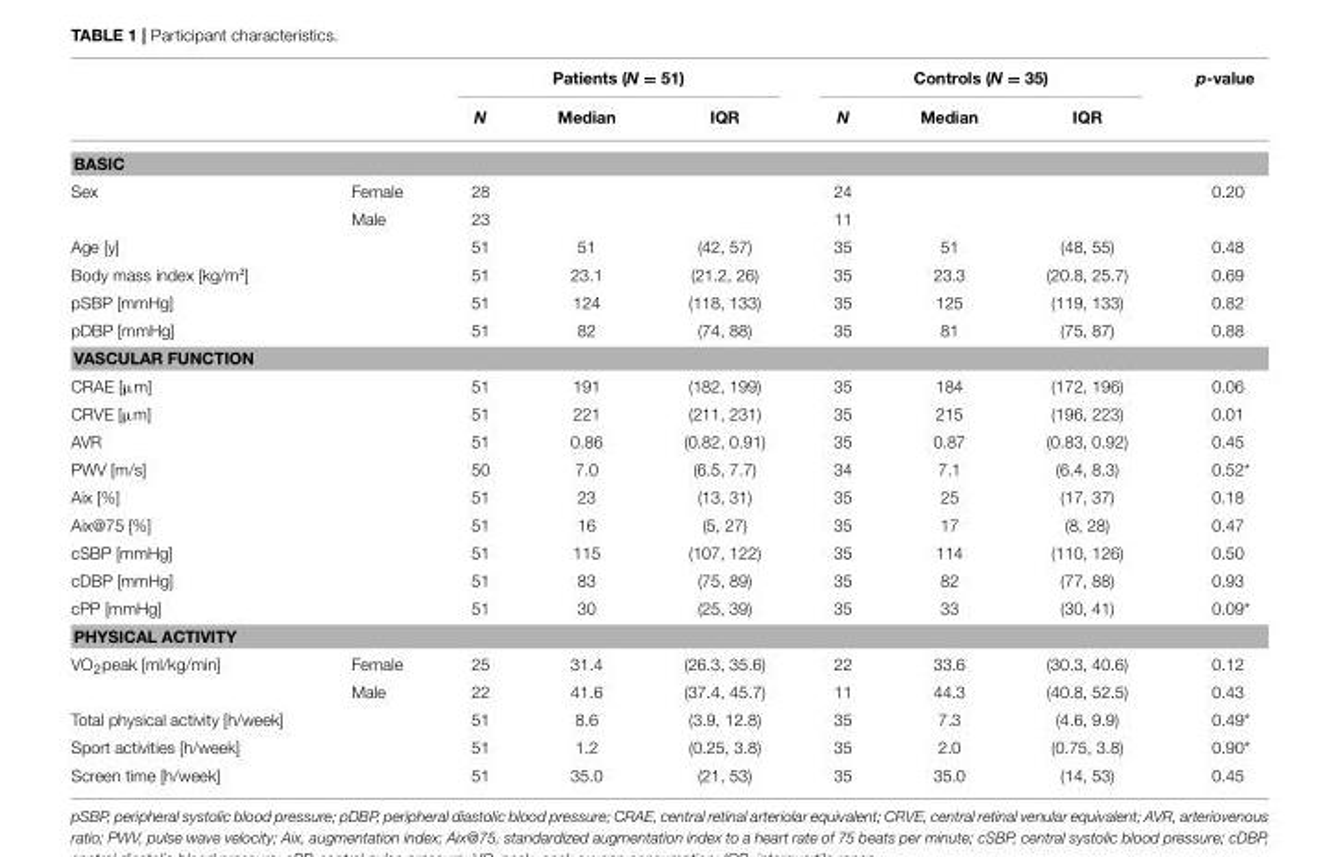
<table><thead><tr><td rowspan="2"></td><td rowspan="2"></td><td colspan="3">Patients (N = 51)</td><td colspan="3">Controls (N = 35)</td><td rowspan="2">p-value</td></tr><tr><td>N</td><td>Median</td><td>IQR</td><td>N</td><td>Median</td><td>IQR</td></tr></thead><tbody><tr><td colspan="9">BASIC</td></tr><tr><td rowspan="2">Sex</td><td>Female</td><td>28</td><td></td><td></td><td>24</td><td></td><td></td><td>0.20</td></tr><tr><td>Male</td><td>23</td><td></td><td></td><td>11</td><td></td><td></td><td></td></tr><tr><td>Age [y]</td><td></td><td>51</td><td>51</td><td>(42, 57)</td><td>35</td><td>51</td><td>(48, 55)</td><td>0.48</td></tr><tr><td>Body mass index [kg/m²]</td><td></td><td>51</td><td>23.1</td><td>(21.2, 26)</td><td>35</td><td>23.3</td><td>(20.8, 25.7)</td><td>0.69</td></tr><tr><td>pSBP [mmHg]</td><td></td><td>51</td><td>124</td><td>(118, 133)</td><td>35</td><td>125</td><td>(119, 133)</td><td>0.82</td></tr><tr><td>pDBP [mmHg]</td><td></td><td>51</td><td>82</td><td>(74, 88)</td><td>35</td><td>81</td><td>(75, 87)</td><td>0.88</td></tr><tr><td colspan="9">VASCULAR FUNCTION</td></tr><tr><td>CRAE [µm]</td><td></td><td>51</td><td>191</td><td>(182, 199)</td><td>35</td><td>184</td><td>(172, 196)</td><td>0.06</td></tr><tr><td>CRVE [µm]</td><td></td><td>51</td><td>221</td><td>(211, 231)</td><td>35</td><td>215</td><td>(196, 223)</td><td>0.01</td></tr><tr><td>AVR</td><td></td><td>51</td><td>0.86</td><td>(0.82, 0.91)</td><td>35</td><td>0.87</td><td>(0.83, 0.92)</td><td>0.45</td></tr><tr><td>PWV [m/s]</td><td></td><td>50</td><td>7.0</td><td>(6.5, 7.7)</td><td>34</td><td>7.1</td><td>(6.4, 8.3)</td><td>0.52*</td></tr><tr><td>Aix [%]</td><td></td><td>51</td><td>23</td><td>(13, 31)</td><td>35</td><td>25</td><td>(17, 37)</td><td>0.18</td></tr><tr><td>Aix@75 [%]</td><td></td><td>51</td><td>16</td><td>(5, 27)</td><td>35</td><td>17</td><td>(8, 28)</td><td>0.47</td></tr><tr><td>cSBP [mmHg]</td><td></td><td>51</td><td>115</td><td>(107, 122)</td><td>35</td><td>114</td><td>(110, 126)</td><td>0.50</td></tr><tr><td>cDBP [mmHg]</td><td></td><td>51</td><td>83</td><td>(75, 89)</td><td>35</td><td>82</td><td>(77, 88)</td><td>0.93</td></tr><tr><td>cPP [mmHg]</td><td></td><td>51</td><td>30</td><td>(25, 39)</td><td>35</td><td>33</td><td>(30, 41)</td><td>0.09*</td></tr><tr><td colspan="9">PHYSICAL ACTIVITY</td></tr><tr><td rowspan="2">VO<sub>2</sub>peak [ml/kg/min]</td><td>Female</td><td>25</td><td>31.4</td><td>(26.3, 35.6)</td><td>22</td><td>33.6</td><td>(30.3, 40.6)</td><td>0.12</td></tr><tr><td>Male</td><td>22</td><td>41.6</td><td>(37.4, 45.7)</td><td>11</td><td>44.3</td><td>(40.8, 52.5)</td><td>0.43</td></tr><tr><td>Total physical activity [h/week]</td><td></td><td>51</td><td>8.6</td><td>(3.9, 12.8)</td><td>35</td><td>7.3</td><td>(4.6, 9.9)</td><td>0.49*</td></tr><tr><td>Sport activities [h/week]</td><td></td><td>51</td><td>1.2</td><td>(0.25, 3.8)</td><td>35</td><td>2.0</td><td>(0.75, 3.8)</td><td>0.90*</td></tr><tr><td>Screen time [h/week]</td><td></td><td>51</td><td>35.0</td><td>(21, 53)</td><td>35</td><td>35.0</td><td>(14, 53)</td><td>0.45</td></tr></tbody></table>